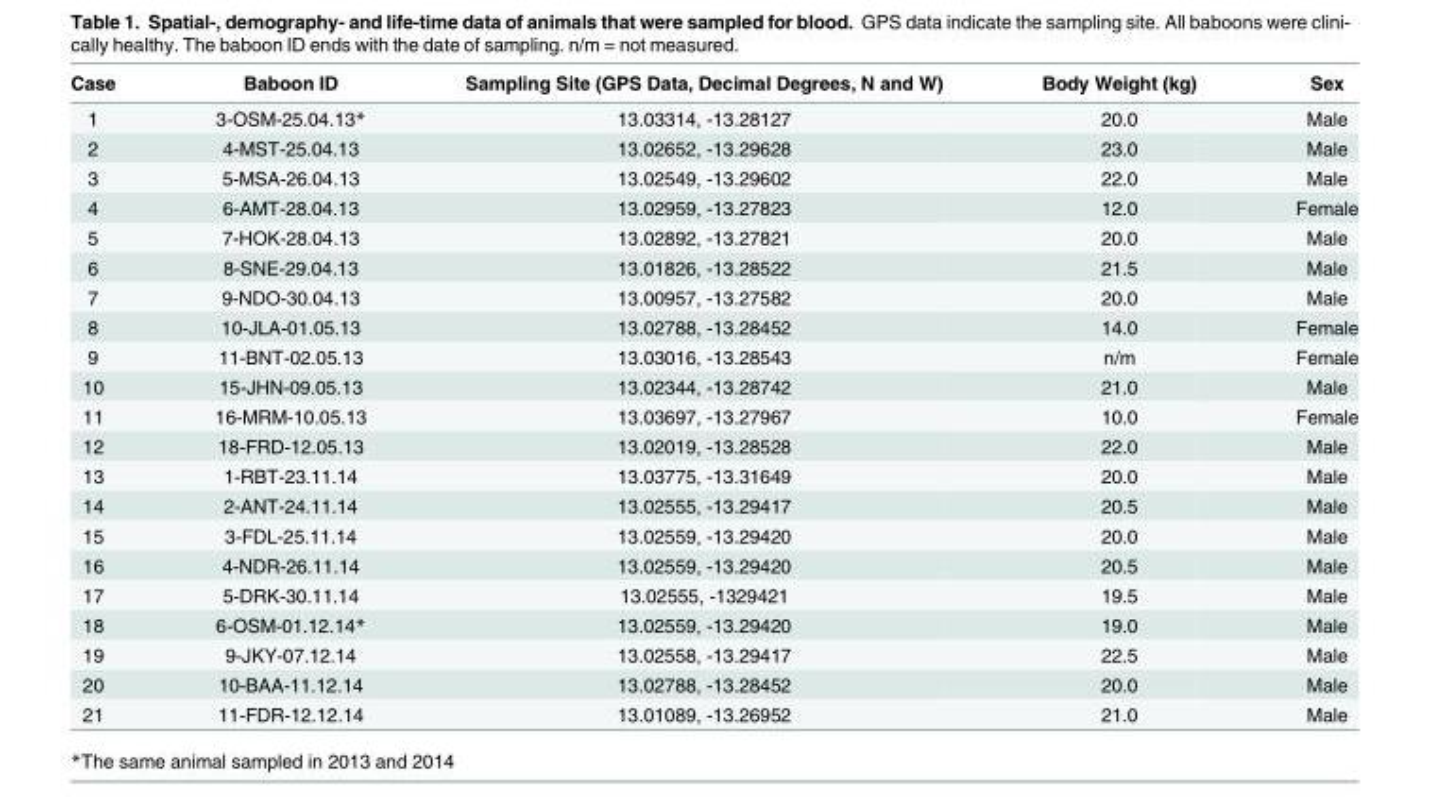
<table><thead><tr><td>Case</td><td>Baboon ID</td><td>Sampling Site (GPS Data, Decimal Degrees, N and W)</td><td>Body Weight (kg)</td><td>Sex</td></tr></thead><tbody><tr><td>1</td><td>3-OSM-25.04.13*</td><td>13.03314, -13.28127</td><td>20.0</td><td>Male</td></tr><tr><td>2</td><td>4-MST-25.04.13</td><td>13.02652, -13.29628</td><td>23.0</td><td>Male</td></tr><tr><td>3</td><td>5-MSA-26.04.13</td><td>13.02549, -13.29602</td><td>22.0</td><td>Male</td></tr><tr><td>4</td><td>6-AMT-28.04.13</td><td>13.02959, -13.27823</td><td>12.0</td><td>Female</td></tr><tr><td>5</td><td>7-HOK-28.04.13</td><td>13.02892, -13.27821</td><td>20.0</td><td>Male</td></tr><tr><td>6</td><td>8-SNE-29.04.13</td><td>13.01826, -13.28522</td><td>21.5</td><td>Male</td></tr><tr><td>7</td><td>9-NDO-30.04.13</td><td>13.00957, -13.27582</td><td>20.0</td><td>Male</td></tr><tr><td>8</td><td>10-JLA-01.05.13</td><td>13.02788, -13.28452</td><td>14.0</td><td>Female</td></tr><tr><td>9</td><td>11-BNT-02.05.13</td><td>13.03016, -13.28543</td><td>n/m</td><td>Female</td></tr><tr><td>10</td><td>15-JHN-09.05.13</td><td>13.02344, -13.28742</td><td>21.0</td><td>Male</td></tr><tr><td>11</td><td>16-MRM-10.05.13</td><td>13.03697, -13.27967</td><td>10.0</td><td>Female</td></tr><tr><td>12</td><td>18-FRD-12.05.13</td><td>13.02019, -13.28528</td><td>22.0</td><td>Male</td></tr><tr><td>13</td><td>1-RBT-23.11.14</td><td>13.03775, -13.31649</td><td>20.0</td><td>Male</td></tr><tr><td>14</td><td>2-ANT-24.11.14</td><td>13.02555, -13.29417</td><td>20.5</td><td>Male</td></tr><tr><td>15</td><td>3-FDL-25.11.14</td><td>13.02559, -13.29420</td><td>20.0</td><td>Male</td></tr><tr><td>16</td><td>4-NDR-26.11.14</td><td>13.02559, -13.29420</td><td>20.5</td><td>Male</td></tr><tr><td>17</td><td>5-DRK-30.11.14</td><td>13.02555, -1329421</td><td>19.5</td><td>Male</td></tr><tr><td>18</td><td>6-OSM-01.12.14*</td><td>13.02559, -13.29420</td><td>19.0</td><td>Male</td></tr><tr><td>19</td><td>9-JKY-07.12.14</td><td>13.02558, -13.29417</td><td>22.5</td><td>Male</td></tr><tr><td>20</td><td>10-BAA-11.12.14</td><td>13.02788, -13.28452</td><td>20.0</td><td>Male</td></tr><tr><td>21</td><td>11-FDR-12.12.14</td><td>13.01089, -13.26952</td><td>21.0</td><td>Male</td></tr></tbody></table>